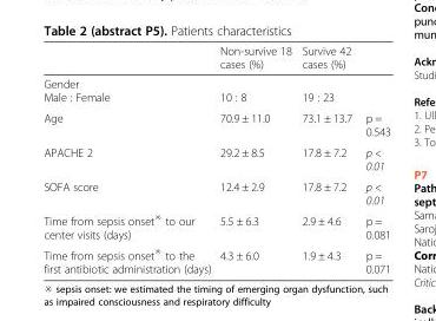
<table><thead><tr><td></td><td>Non-survive 18 cases (%)</td><td>Survive 42 cases (%)</td><td></td></tr></thead><tbody><tr><td>Gender Male : Female</td><td>10 : 8</td><td>19 : 23</td><td></td></tr><tr><td>Age</td><td>70.9 ± 11.0</td><td>73.1 ± 13.7</td><td>p = 0.543</td></tr><tr><td>APACHE 2</td><td>29.2 ± 8.5</td><td>17.8 ± 7.2</td><td>p &lt; 0.01</td></tr><tr><td>SOFA score</td><td>12.4 ± 2.9</td><td>17.8 ± 7.2</td><td>p &lt; 0.01</td></tr><tr><td>Time from sepsis onset<sup>※</sup> to our center visits (days)</td><td>5.5 ± 6.3</td><td>2.9 ± 4.6</td><td>p = 0.081</td></tr><tr><td>Time from sepsis onset<sup>※</sup> to the first antibiotic administration (days)</td><td>4.3 ± 6.0</td><td>1.9 ± 4.3</td><td>p = 0.071</td></tr></tbody></table>